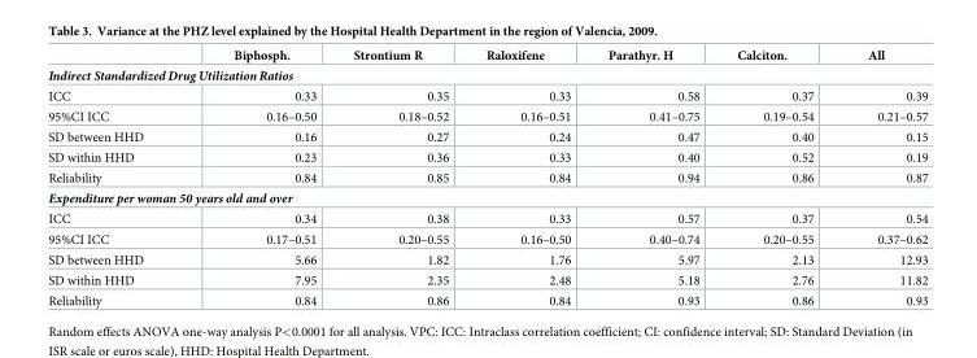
<table><thead><tr><td></td><td>Biphosph.</td><td>Strontium R</td><td>Raloxifene</td><td>Parathyr. H</td><td>Calciton.</td><td>All</td></tr></thead><tbody><tr><td colspan="7">Indirect Standardized Drug Utilization Ratios</td></tr><tr><td>ICC</td><td>0.33</td><td>0.35</td><td>0.33</td><td>0.58</td><td>0.37</td><td>0.39</td></tr><tr><td>95%CI ICC</td><td>0.16–0.50</td><td>0.18–0.52</td><td>0.16–0.51</td><td>0.41–0.75</td><td>0.19–0.54</td><td>0.21–0.57</td></tr><tr><td>SD between HHD</td><td>0.16</td><td>0.27</td><td>0.24</td><td>0.47</td><td>0.40</td><td>0.15</td></tr><tr><td>SD within HHD</td><td>0.23</td><td>0.36</td><td>0.33</td><td>0.40</td><td>0.52</td><td>0.19</td></tr><tr><td>Reliability</td><td>0.84</td><td>0.85</td><td>0.84</td><td>0.94</td><td>0.86</td><td>0.87</td></tr><tr><td colspan="7">Expenditure per woman 50 years old and over</td></tr><tr><td>ICC</td><td>0.34</td><td>0.38</td><td>0.33</td><td>0.57</td><td>0.37</td><td>0.54</td></tr><tr><td>95%CI ICC</td><td>0.17–0.51</td><td>0.20–0.55</td><td>0.16–0.50</td><td>0.40–0.74</td><td>0.20–0.55</td><td>0.37–0.62</td></tr><tr><td>SD between HHD</td><td>5.66</td><td>1.82</td><td>1.76</td><td>5.97</td><td>2.13</td><td>12.93</td></tr><tr><td>SD within HHD</td><td>7.95</td><td>2.35</td><td>2.48</td><td>5.18</td><td>2.76</td><td>11.82</td></tr><tr><td>Reliability</td><td>0.84</td><td>0.86</td><td>0.84</td><td>0.93</td><td>0.86</td><td>0.93</td></tr></tbody></table>